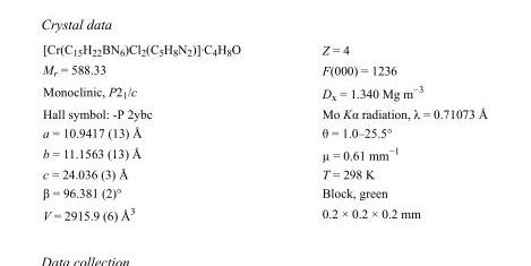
<table><tbody><tr><td>[Cr(C<sub>15</sub>H<sub>22</sub>BN<sub>6</sub>)Cl<sub>2</sub>(C<sub>5</sub>H<sub>8</sub>N<sub>2</sub>)]·C<sub>4</sub>H<sub>8</sub>O</td><td>Z = 4</td></tr><tr><td>M<sub>r</sub> = 588.33</td><td>F(000) = 1236</td></tr><tr><td>Monoclinic, P2<sub>1</sub>/c</td><td>D<sub>x</sub> = 1.340 Mg m<sup>−3</sup></td></tr><tr><td>Hall symbol: -P 2ybc</td><td>Mo Kα radiation, λ = 0.71073 Å</td></tr><tr><td>a = 10.9417 (13) Å</td><td>θ = 1.0–25.5°</td></tr><tr><td>b = 11.1563 (13) Å</td><td>µ = 0.61 mm<sup>−1</sup></td></tr><tr><td>c = 24.036 (3) Å</td><td>T = 298 K</td></tr><tr><td>β = 96.381 (2)°</td><td>Block, green</td></tr><tr><td>V = 2915.9 (6) Å<sup>3</sup></td><td>0.2 × 0.2 × 0.2 mm</td></tr></tbody></table>